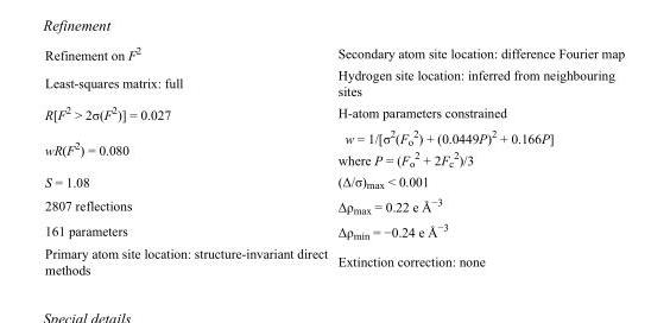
<table><tbody><tr><td>Refinement on F<sup>2</sup></td><td>Secondary atom site location: difference Fourier map</td></tr><tr><td>Least-squares matrix: full</td><td>Hydrogen site location: inferred from neighbouring sites</td></tr><tr><td>R[F<sup>2</sup> &gt; 2σ(F<sup>2</sup>)] = 0.027</td><td>H-atom parameters constrained</td></tr><tr><td>wR(F<sup>2</sup>) = 0.080</td><td>w = 1/[σ<sup>2</sup>(F<sub>o</sub> <sup>2</sup>) + (0.0449P)<sup>2</sup> + 0.166P] where P = (F<sub>o</sub> <sup>2</sup> + 2F<sub>c</sub> <sup>2</sup>)/3</td></tr><tr><td>S = 1.08</td><td>(Δ/σ)<sub>max</sub> &lt; 0.001</td></tr><tr><td>2807 reflections</td><td>Δρ<sub>max</sub> = 0.22 e Å<sup>−3</sup></td></tr><tr><td>161 parameters</td><td>Δρ<sub>min</sub> = −0.24 e Å<sup>−3</sup></td></tr><tr><td>Primary atom site location: structure-invariant direct methods</td><td>Extinction correction: none</td></tr></tbody></table>